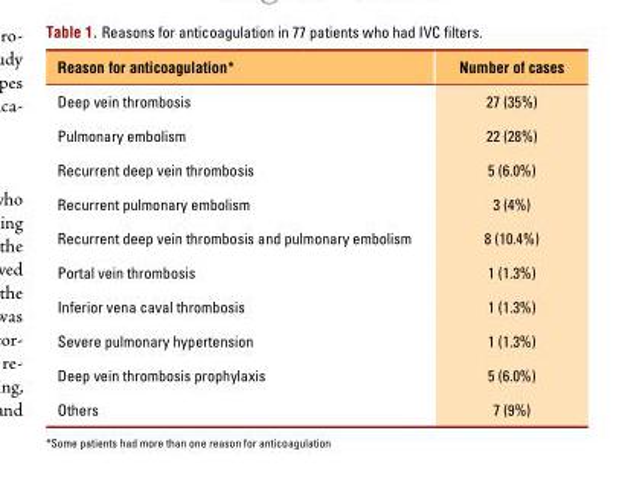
<table><thead><tr><td>Reason for anticoagulation*</td><td>Number of cases</td></tr></thead><tbody><tr><td>Deep vein thrombosis</td><td>27 (35%)</td></tr><tr><td>Pulmonary embolism</td><td>22 (28%)</td></tr><tr><td>Recurrent deep vein thrombosis</td><td>5 (6.0%)</td></tr><tr><td>Recurrent pulmonary embolism</td><td>3 (4%)</td></tr><tr><td>Recurrent deep vein thrombosis and pulmonary embolism</td><td>8 (10.4%)</td></tr><tr><td>Portal vein thrombosis</td><td>1 (1.3%)</td></tr><tr><td>Inferior vena caval thrombosis</td><td>1 (1.3%)</td></tr><tr><td>Severe pulmonary hypertension</td><td>1 (1.3%)</td></tr><tr><td>Deep vein thrombosis prophylaxis</td><td>5 (6.0%)</td></tr><tr><td>Others</td><td>7 (9%)</td></tr></tbody></table>